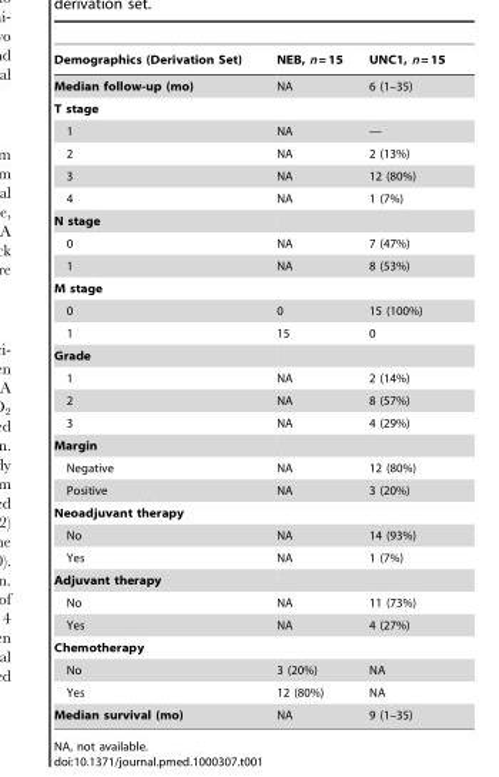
<table><thead><tr><td>Demographics (Derivation Set)</td><td>NEB, n = 15</td><td>UNC1, n = 15</td></tr></thead><tbody><tr><td>Median follow-up (mo)</td><td>NA</td><td>6 (1–35)</td></tr><tr><td colspan="3">T stage</td></tr><tr><td>1</td><td>NA</td><td>—</td></tr><tr><td>2</td><td>NA</td><td>2 (13%)</td></tr><tr><td>3</td><td>NA</td><td>12 (80%)</td></tr><tr><td>4</td><td>NA</td><td>1 (7%)</td></tr><tr><td colspan="3">N stage</td></tr><tr><td>0</td><td>NA</td><td>7 (47%)</td></tr><tr><td>1</td><td>NA</td><td>8 (53%)</td></tr><tr><td colspan="3">M stage</td></tr><tr><td>0</td><td>0</td><td>15 (100%)</td></tr><tr><td>1</td><td>15</td><td>0</td></tr><tr><td colspan="3">Grade</td></tr><tr><td>1</td><td>NA</td><td>2 (14%)</td></tr><tr><td>2</td><td>NA</td><td>8 (57%)</td></tr><tr><td>3</td><td>NA</td><td>4 (29%)</td></tr><tr><td colspan="3">Margin</td></tr><tr><td>Negative</td><td>NA</td><td>12 (80%)</td></tr><tr><td>Positive</td><td>NA</td><td>3 (20%)</td></tr><tr><td colspan="3">Neoadjuvant therapy</td></tr><tr><td>No</td><td>NA</td><td>14 (93%)</td></tr><tr><td>Yes</td><td>NA</td><td>1 (7%)</td></tr><tr><td colspan="3">Adjuvant therapy</td></tr><tr><td>No</td><td>NA</td><td>11 (73%)</td></tr><tr><td>Yes</td><td>NA</td><td>4 (27%)</td></tr><tr><td colspan="3">Chemotherapy</td></tr><tr><td>No</td><td>3 (20%)</td><td>NA</td></tr><tr><td>Yes</td><td>12 (80%)</td><td>NA</td></tr><tr><td>Median survival (mo)</td><td>NA</td><td>9 (1–35)</td></tr></tbody></table>